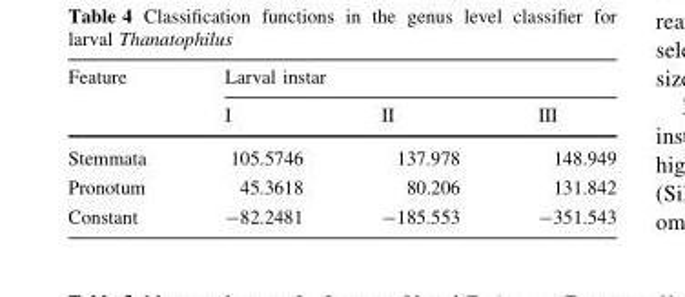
<table><thead><tr><td rowspan="2">Feature</td><td colspan="3">Larval instar</td></tr><tr><td>I</td><td>II</td><td>III</td></tr></thead><tbody><tr><td>Stemmata</td><td>105.5746</td><td>137.978</td><td>148.949</td></tr><tr><td>Pronotum</td><td>45.3618</td><td>80.206</td><td>131.842</td></tr><tr><td>Constant</td><td>-82.2481</td><td>-185.553</td><td>-351.543</td></tr></tbody></table>